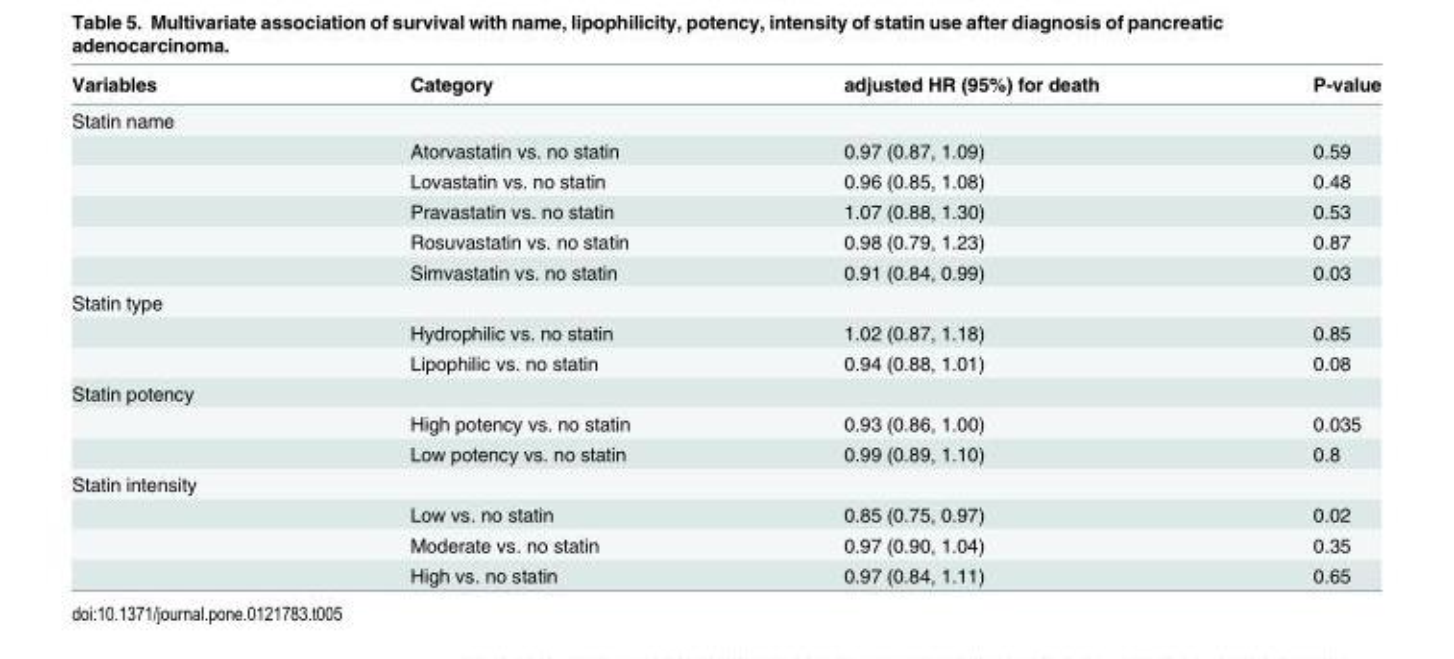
<table><thead><tr><td>Variables</td><td>Category</td><td>adjusted HR (95%) for death</td><td>P-value</td></tr></thead><tbody><tr><td colspan="4">Statin name</td></tr><tr><td></td><td>Atorvastatin vs. no statin</td><td>0.97 (0.87, 1.09)</td><td>0.59</td></tr><tr><td></td><td>Lovastatin vs. no statin</td><td>0.96 (0.85, 1.08)</td><td>0.48</td></tr><tr><td></td><td>Pravastatin vs. no statin</td><td>1.07 (0.88, 1.30)</td><td>0.53</td></tr><tr><td></td><td>Rosuvastatin vs. no statin</td><td>0.98 (0.79, 1.23)</td><td>0.87</td></tr><tr><td></td><td>Simvastatin vs. no statin</td><td>0.91 (0.84, 0.99)</td><td>0.03</td></tr><tr><td colspan="4">Statin type</td></tr><tr><td></td><td>Hydrophilic vs. no statin</td><td>1.02 (0.87, 1.18)</td><td>0.85</td></tr><tr><td></td><td>Lipophilic vs. no statin</td><td>0.94 (0.88, 1.01)</td><td>0.08</td></tr><tr><td colspan="4">Statin potency</td></tr><tr><td></td><td>High potency vs. no statin</td><td>0.93 (0.86, 1.00)</td><td>0.035</td></tr><tr><td></td><td>Low potency vs. no statin</td><td>0.99 (0.89, 1.10)</td><td>0.8</td></tr><tr><td colspan="4">Statin intensity</td></tr><tr><td></td><td>Low vs. no statin</td><td>0.85 (0.75, 0.97)</td><td>0.02</td></tr><tr><td></td><td>Moderate vs. no statin</td><td>0.97 (0.90, 1.04)</td><td>0.35</td></tr><tr><td></td><td>High vs. no statin</td><td>0.97 (0.84, 1.11)</td><td>0.65</td></tr></tbody></table>